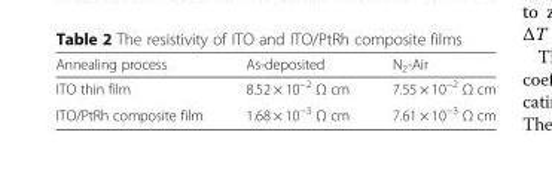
<table><thead><tr><td>Annealing process</td><td>As-deposited</td><td>N<sub>2</sub>-Air</td></tr></thead><tbody><tr><td>ITO thin film</td><td>8.52 × 10<sup>−2</sup> Ω cm</td><td>7.55 × 10<sup>−2</sup> Ω cm</td></tr><tr><td>ITO/PtRh composite film</td><td>1.68 × 10<sup>−3</sup> Ω cm</td><td>7.61 × 10<sup>−3</sup> Ω cm</td></tr></tbody></table>